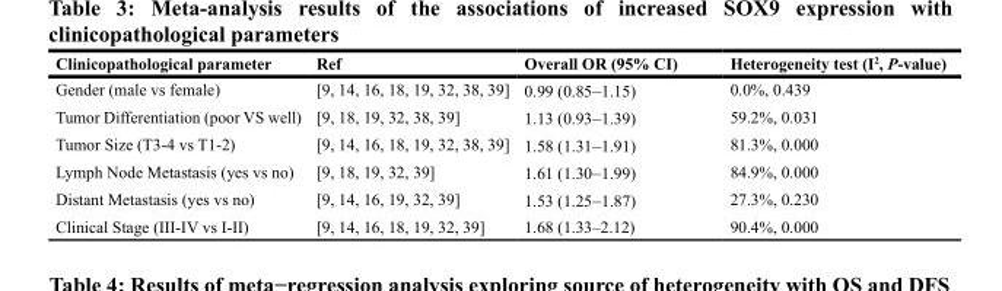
<table><thead><tr><td>Clinicopathological parameter</td><td>Ref</td><td>Overall OR (95% CI)</td><td>Heterogeneity test (I<sup>2</sup>, P-value)</td></tr></thead><tbody><tr><td>Gender (male vs female)</td><td>[9, 14, 16, 18, 19, 32, 38, 39]</td><td>0.99 (0.85–1.15)</td><td>0.0%, 0.439</td></tr><tr><td>Tumor Differentiation (poor VS well)</td><td>[9, 18, 19, 32, 38, 39]</td><td>1.13 (0.93–1.39)</td><td>59.2%, 0.031</td></tr><tr><td>Tumor Size (T3-4 vs T1-2)</td><td>[9, 14, 16, 18, 19, 32, 38, 39]</td><td>1.58 (1.31–1.91)</td><td>81.3%, 0.000</td></tr><tr><td>Lymph Node Metastasis (yes vs no)</td><td>[9, 18, 19, 32, 39]</td><td>1.61 (1.30–1.99)</td><td>84.9%, 0.000</td></tr><tr><td>Distant Metastasis (yes vs no)</td><td>[9, 14, 16, 19, 32, 39]</td><td>1.53 (1.25–1.87)</td><td>27.3%, 0.230</td></tr><tr><td>Clinical Stage (III-IV vs I-II)</td><td>[9, 14, 16, 18, 19, 32, 39]</td><td>1.68 (1.33–2.12)</td><td>90.4%, 0.000</td></tr></tbody></table>